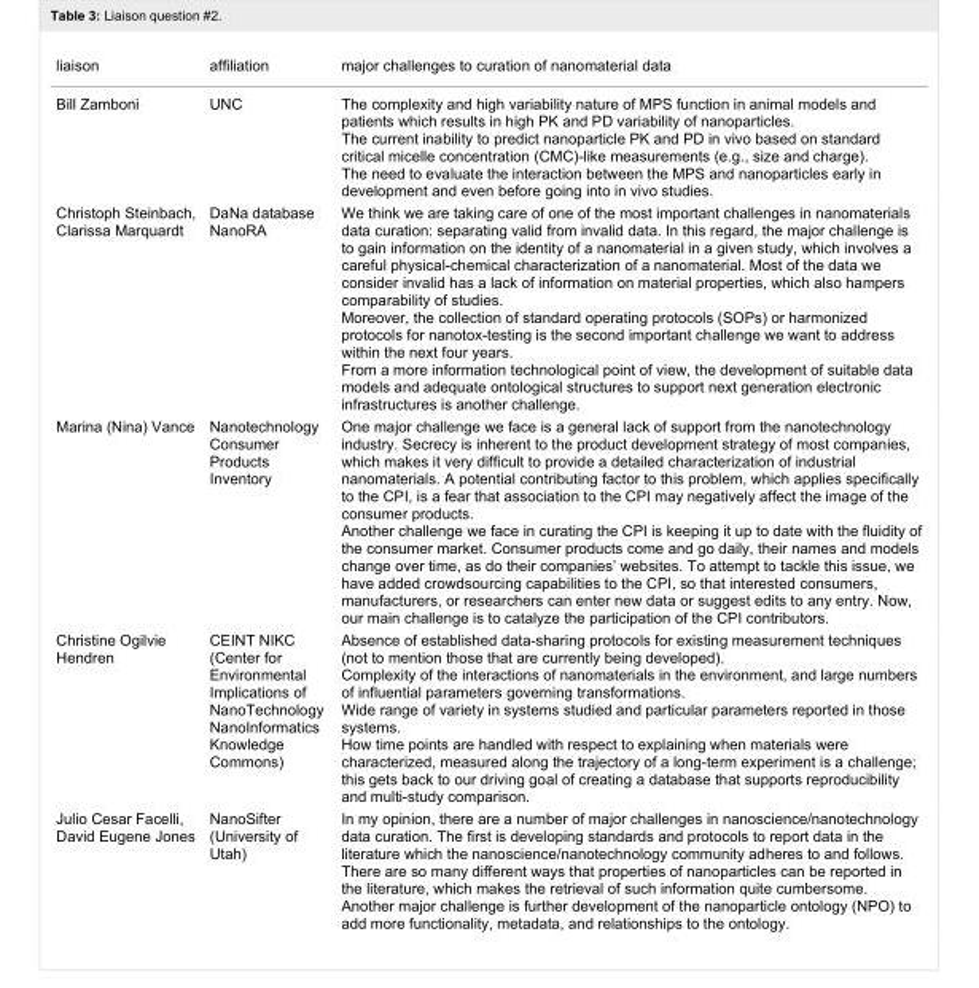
<table><tbody><tr><td>liaison</td><td>affiliation</td><td>major challenges to curation of nanomaterial data</td></tr><tr><td>Bill Zamboni</td><td>UNC</td><td>The complexity and high variability nature of MPS function in animal models and patients which results in high PK and PD variability of nanoparticles. The current inability to predict nanoparticle PK and PD in vivo based on standard critical micelle concentration (CMC)-like measurements (e.g., size and charge). The need to evaluate the interaction between the MPS and nanoparticles early in development and even before going into in vivo studies.</td></tr><tr><td>Christoph Steinbach, Clarissa Marquardt</td><td>DaNa database NanoRA</td><td>We think we are taking care of one of the most important challenges in nanomaterials data curation: separating valid from invalid data. In this regard, the major challenge is to gain information on the identity of a nanomaterial in a given study, which involves a careful physical-chemical characterization of a nanomaterial. Most of the data we consider invalid has a lack of information on material properties, which also hampers comparability of studies. Moreover, the collection of standard operating protocols (SOPs) or harmonized protocols for nanotox-testing is the second important challenge we want to address within the next four years. From a more information technological point of view, the development of suitable data models and adequate ontological structures to support next generation electronic infrastructures is another challenge.</td></tr><tr><td>Marina (Nina) Vance</td><td>Nanotechnology Consumer Products Inventory</td><td>One major challenge we face is a general lack of support from the nanotechnology industry. Secrecy is inherent to the product development strategy of most companies, which makes it very difficult to provide a detailed characterization of industrial nanomaterials. A potential contributing factor to this problem, which applies specifically to the CPI, is a fear that association to the CPI may negatively affect the image of the consumer products. Another challenge we face in curating the CPI is keeping it up to date with the fluidity of the consumer market. Consumer products come and go daily, their names and models change over time, as do their companies’ websites. To attempt to tackle this issue, we have added crowdsourcing capabilities to the CPI, so that interested consumers, manufacturers, or researchers can enter new data or suggest edits to any entry. Now, our main challenge is to catalyze the participation of the CPI contributors.</td></tr><tr><td>Christine Ogilvie Hendren</td><td>CEINT NIKC (Center for Environmental Implications of NanoTechnology NanoInformatics Knowledge Commons)</td><td>Absence of established data-sharing protocols for existing measurement techniques (not to mention those that are currently being developed). Complexity of the interactions of nanomaterials in the environment, and large numbers of influential parameters governing transformations. Wide range of variety in systems studied and particular parameters reported in those systems. How time points are handled with respect to explaining when materials were characterized, measured along the trajectory of a long-term experiment is a challenge; this gets back to our driving goal of creating a database that supports reproducibility and multi-study comparison.</td></tr><tr><td>Julio Cesar Facelli, David Eugene Jones</td><td>NanoSifter (University of Utah)</td><td>In my opinion, there are a number of major challenges in nanoscience/nanotechnology data curation. The first is developing standards and protocols to report data in the literature which the nanoscience/nanotechnology community adheres to and follows. There are so many different ways that properties of nanoparticles can be reported in the literature, which makes the retrieval of such information quite cumbersome. Another major challenge is further development of the nanoparticle ontology (NPO) to add more functionality, metadata, and relationships to the ontology.</td></tr></tbody></table>